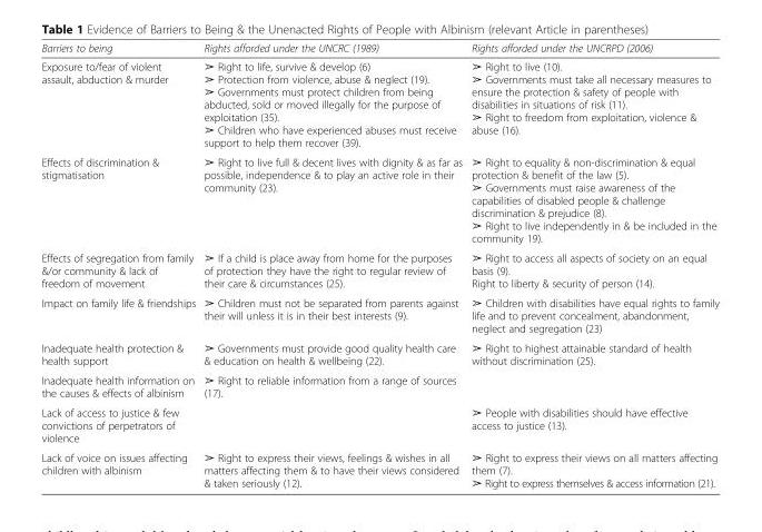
<table><thead><tr><td>Barriers to being</td><td>Rights afforded under the UNCRC (1989)</td><td>Rights afforded under the UNCRPD (2006)</td></tr></thead><tbody><tr><td>Exposure to/fear of violent assault, abduction &amp; murder</td><td>➢ Right to life, survive &amp; develop (6) ➢ Protection from violence, abuse &amp; neglect (19). ➢ Governments must protect children from being abducted, sold or moved illegally for the purpose of exploitation (35). ➢ Children who have experienced abuses must receive support to help them recover (39).</td><td>➢ Right to live (10). ➢ Governments must take all necessary measures to ensure the protection &amp; safety of people with disabilities in situations of risk (11). ➢ Right to freedom from exploitation, violence &amp; abuse (16).</td></tr><tr><td>Effects of discrimination &amp; stigmatisation</td><td>➢ Right to live full &amp; decent lives with dignity &amp; as far as possible, independence &amp; to play an active role in their community (23).</td><td>➢ Right to equality &amp; non-discrimination &amp; equal protection &amp; benefit of the law (5). ➢ Governments must raise awareness of the capabilities of disabled people &amp; challenge discrimination &amp; prejudice (8). ➢ Right to live independently in &amp; be included in the community 19).</td></tr><tr><td>Effects of segregation from family &amp;/or community &amp; lack of freedom of movement</td><td>➢ If a child is place away from home for the purposes of protection they have the right to regular review of their care &amp; circumstances (25).</td><td>➢ Right to access all aspects of society on an equal basis (9). Right to liberty &amp; security of person (14).</td></tr><tr><td>Impact on family life &amp; friendships</td><td>➢ Children must not be separated from parents against their will unless it is in their best interests (9).</td><td>➢ Children with disabilities have equal rights to family life and to prevent concealment, abandonment, neglect and segregation (23)</td></tr><tr><td>Inadequate health protection &amp; health support</td><td>➢ Governments must provide good quality health care &amp; education on health &amp; wellbeing (22).</td><td>➢ Right to highest attainable standard of health without discrimination (25).</td></tr><tr><td>Inadequate health information on the causes &amp; effects of albinism</td><td>➢ Right to reliable information from a range of sources (17).</td><td></td></tr><tr><td>Lack of access to justice &amp; few convictions of perpetrators of violence</td><td></td><td>➢ People with disabilities should have effective access to justice (13).</td></tr><tr><td>Lack of voice on issues affecting children with albinism</td><td>➢ Right to express their views, feelings &amp; wishes in all matters affecting them &amp; to have their views considered &amp; taken seriously (12).</td><td>➢ Right to express their views on all matters affecting them (7). ➢ Right to express themselves &amp; access information (21).</td></tr></tbody></table>